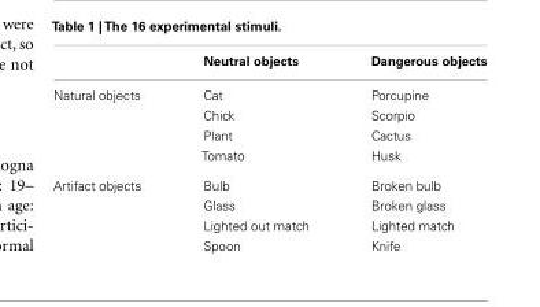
<table><thead><tr><td></td><td>Neutral objects</td><td>Dangerous objects</td></tr></thead><tbody><tr><td rowspan="4">Natural objects</td><td>Cat</td><td>Porcupine</td></tr><tr><td>Chick</td><td>Scorpio</td></tr><tr><td>Plant</td><td>Cactus</td></tr><tr><td>Tomato</td><td>Husk</td></tr><tr><td rowspan="4">Artifact objects</td><td>Bulb</td><td>Broken bulb</td></tr><tr><td>Glass</td><td>Broken glass</td></tr><tr><td>Lighted out match</td><td>Lighted match</td></tr><tr><td>Spoon</td><td>Knife</td></tr></tbody></table>